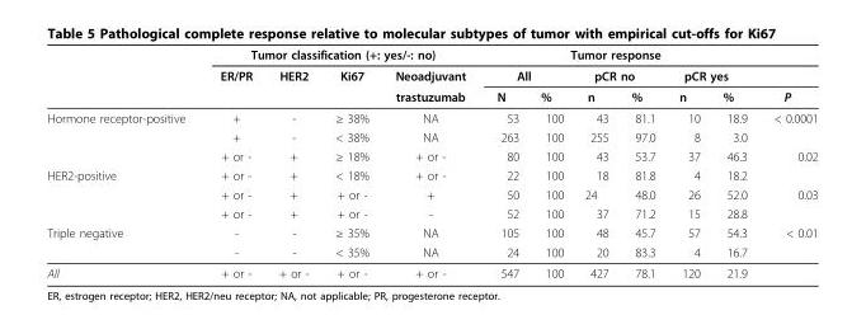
<table><thead><tr><td rowspan="3"></td><td colspan="4">Tumor classification (+: yes/-: no)</td><td colspan="6">Tumor response</td><td rowspan="3">P</td></tr><tr><td rowspan="2">ER/PR</td><td rowspan="2">HER2</td><td rowspan="2">Ki67</td><td rowspan="2">Neoadjuvant trastuzumab</td><td colspan="2">All</td><td colspan="2">pCR no</td><td colspan="2">pCR yes</td></tr><tr><td>N</td><td>%</td><td>n</td><td>%</td><td>n</td><td>%</td></tr></thead><tbody><tr><td rowspan="3">Hormone receptor-positive</td><td>+</td><td>-</td><td>≥ 38%</td><td>NA</td><td>53</td><td>100</td><td>43</td><td>81.1</td><td>10</td><td>18.9</td><td>&lt; 0.0001</td></tr><tr><td>+</td><td>-</td><td>&lt; 38%</td><td>NA</td><td>263</td><td>100</td><td>255</td><td>97.0</td><td>8</td><td>3.0</td><td></td></tr><tr><td>+ or -</td><td>+</td><td>≥ 18%</td><td>+ or -</td><td>80</td><td>100</td><td>43</td><td>53.7</td><td>37</td><td>46.3</td><td>0.02</td></tr><tr><td rowspan="3">HER2-positive</td><td>+ or -</td><td>+</td><td>&lt; 18%</td><td>+ or -</td><td>22</td><td>100</td><td>18</td><td>81.8</td><td>4</td><td>18.2</td><td></td></tr><tr><td>+ or -</td><td>+</td><td>+ or -</td><td>+</td><td>50</td><td>100</td><td>24</td><td>48.0</td><td>26</td><td>52.0</td><td>0.03</td></tr><tr><td>+ or -</td><td>+</td><td>+ or -</td><td>-</td><td>52</td><td>100</td><td>37</td><td>71.2</td><td>15</td><td>28.8</td><td></td></tr><tr><td rowspan="2">Triple negative</td><td>-</td><td>-</td><td>≥ 35%</td><td>NA</td><td>105</td><td>100</td><td>48</td><td>45.7</td><td>57</td><td>54.3</td><td>&lt; 0.01</td></tr><tr><td>-</td><td>-</td><td>&lt; 35%</td><td>NA</td><td>24</td><td>100</td><td>20</td><td>83.3</td><td>4</td><td>16.7</td><td></td></tr><tr><td>All</td><td>+ or -</td><td>+ or -</td><td>+ or -</td><td>+ or -</td><td>547</td><td>100</td><td>427</td><td>78.1</td><td>120</td><td>21.9</td><td></td></tr></tbody></table>